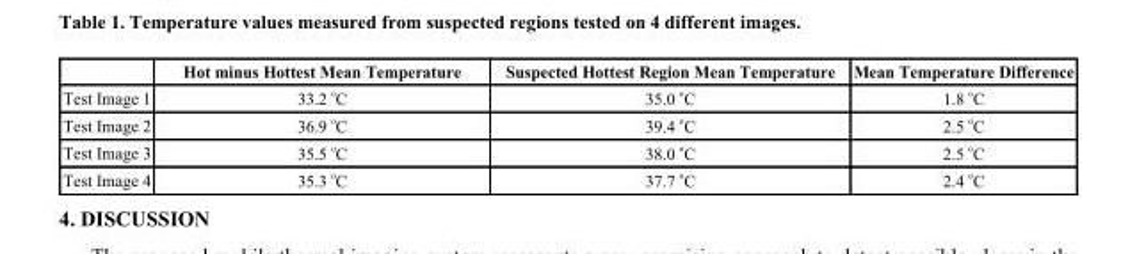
<table><thead><tr><td></td><td>Hot minus Hottest Mean Temperature</td><td>Suspected Hottest Region Mean Temperature</td><td>Mean Temperature Difference</td></tr></thead><tbody><tr><td>Test Image 1</td><td>33.2 <sup>o</sup>C</td><td>35.0 <sup>o</sup>C</td><td>1.8 <sup>o</sup>C</td></tr><tr><td>Test Image 2</td><td>36.9 <sup>o</sup>C</td><td>39.4 <sup>o</sup>C</td><td>2.5 <sup>o</sup>C</td></tr><tr><td>Test Image 3</td><td>35.5 <sup>o</sup>C</td><td>38.0 <sup>o</sup>C</td><td>2.5 <sup>o</sup>C</td></tr><tr><td>Test Image 4</td><td>35.3 <sup>o</sup>C</td><td>37.7 <sup>o</sup>C</td><td>2.4 <sup>o</sup>C</td></tr></tbody></table>